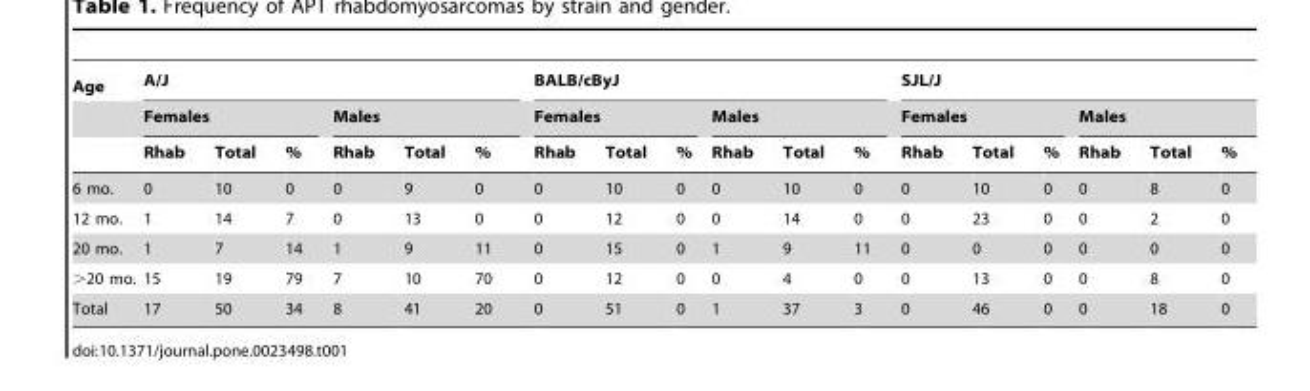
<table><thead><tr><td rowspan="3">Age</td><td colspan="6">A/J</td><td colspan="6">BALB/cByJ</td><td colspan="6">SJL/J</td></tr><tr><td colspan="3">Females</td><td colspan="3">Males</td><td colspan="3">Females</td><td colspan="3">Males</td><td colspan="3">Females</td><td colspan="3">Males</td></tr><tr><td>Rhab</td><td>Total</td><td>%</td><td>Rhab</td><td>Total</td><td>%</td><td>Rhab</td><td>Total</td><td>%</td><td>Rhab</td><td>Total</td><td>%</td><td>Rhab</td><td>Total</td><td>%</td><td>Rhab</td><td>Total</td><td>%</td></tr></thead><tbody><tr><td>6 mo.</td><td>0</td><td>10</td><td>0</td><td>0</td><td>9</td><td>0</td><td>0</td><td>10</td><td>0</td><td>0</td><td>10</td><td>0</td><td>0</td><td>10</td><td>0</td><td>0</td><td>8</td><td>0</td></tr><tr><td>12 mo.</td><td>1</td><td>14</td><td>7</td><td>0</td><td>13</td><td>0</td><td>0</td><td>12</td><td>0</td><td>0</td><td>14</td><td>0</td><td>0</td><td>23</td><td>0</td><td>0</td><td>2</td><td>0</td></tr><tr><td>20 mo.</td><td>1</td><td>7</td><td>14</td><td>1</td><td>9</td><td>11</td><td>0</td><td>15</td><td>0</td><td>1</td><td>9</td><td>11</td><td>0</td><td>0</td><td>0</td><td>0</td><td>0</td><td>0</td></tr><tr><td>&gt;20 mo.</td><td>15</td><td>19</td><td>79</td><td>7</td><td>10</td><td>70</td><td>0</td><td>12</td><td>0</td><td>0</td><td>4</td><td>0</td><td>0</td><td>13</td><td>0</td><td>0</td><td>8</td><td>0</td></tr><tr><td>Total</td><td>17</td><td>50</td><td>34</td><td>8</td><td>41</td><td>20</td><td>0</td><td>51</td><td>0</td><td>1</td><td>37</td><td>3</td><td>0</td><td>46</td><td>0</td><td>0</td><td>18</td><td>0</td></tr></tbody></table>